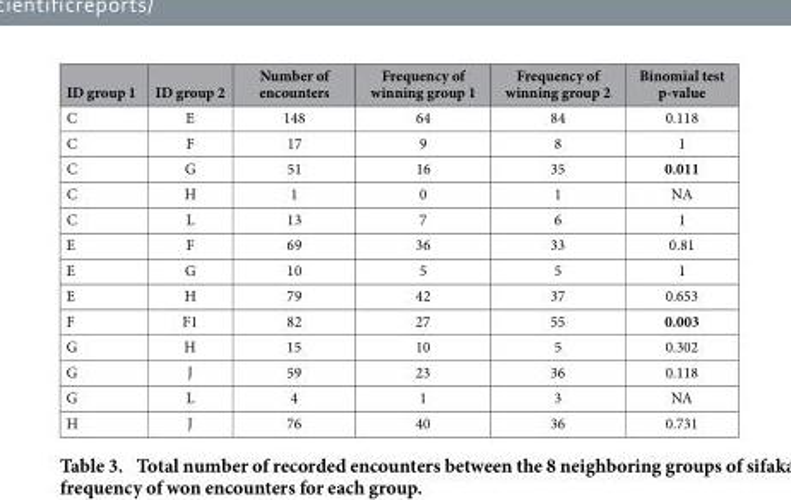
<table><thead><tr><td>ID group 1</td><td>ID group 2</td><td>Number of encounters</td><td>Frequency of winning group 1</td><td>Frequency of winning group 2</td><td>Binomial test p-value</td></tr></thead><tbody><tr><td>C</td><td>E</td><td>148</td><td>64</td><td>84</td><td>0.118</td></tr><tr><td>C</td><td>F</td><td>17</td><td>9</td><td>8</td><td>1</td></tr><tr><td>C</td><td>G</td><td>51</td><td>16</td><td>35</td><td>0.011</td></tr><tr><td>C</td><td>H</td><td>1</td><td>0</td><td>1</td><td>NA</td></tr><tr><td>C</td><td>L</td><td>13</td><td>7</td><td>6</td><td>1</td></tr><tr><td>E</td><td>F</td><td>69</td><td>36</td><td>33</td><td>0.81</td></tr><tr><td>E</td><td>G</td><td>10</td><td>5</td><td>5</td><td>1</td></tr><tr><td>E</td><td>H</td><td>79</td><td>42</td><td>37</td><td>0.653</td></tr><tr><td>F</td><td>F1</td><td>82</td><td>27</td><td>55</td><td>0.003</td></tr><tr><td>G</td><td>H</td><td>15</td><td>10</td><td>5</td><td>0.302</td></tr><tr><td>G</td><td>J</td><td>59</td><td>23</td><td>36</td><td>0.118</td></tr><tr><td>G</td><td>L</td><td>4</td><td>1</td><td>3</td><td>NA</td></tr><tr><td>H</td><td>J</td><td>76</td><td>40</td><td>36</td><td>0.731</td></tr></tbody></table>